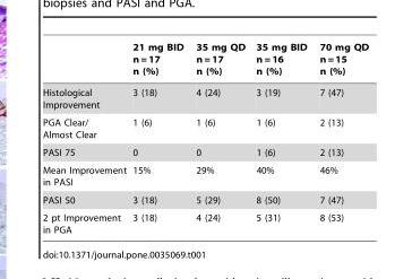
<table><thead><tr><td></td><td>21 mg BID n = 17 n (%)</td><td>35 mg QD n = 17 n (%)</td><td>35 mg BID n = 16 n (%)</td><td>70 mg QD n = 15 n (%)</td></tr></thead><tbody><tr><td>Histological Improvement</td><td>3 (18)</td><td>4 (24)</td><td>3 (19)</td><td>7 (47)</td></tr><tr><td>PGA Clear/ Almost Clear</td><td>1 (6)</td><td>1 (6)</td><td>1 (6)</td><td>2 (13)</td></tr><tr><td>PASI 75</td><td>0</td><td>0</td><td>1 (6)</td><td>2 (13)</td></tr><tr><td>Mean Improvement in PASI</td><td>15%</td><td>29%</td><td>40%</td><td>46%</td></tr><tr><td>PASI 50</td><td>3 (18)</td><td>5 (29)</td><td>8 (50)</td><td>7 (47)</td></tr><tr><td>2 pt Improvement in PGA</td><td>3 (18)</td><td>4 (24)</td><td>5 (31)</td><td>8 (53)</td></tr></tbody></table>